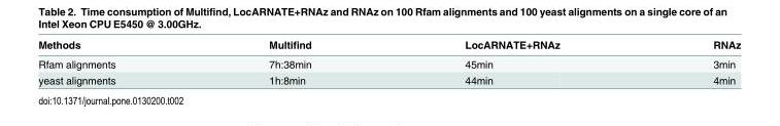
<table><thead><tr><td>Methods</td><td>Multifind</td><td>LocARNATE+RNAz</td><td>RNAz</td></tr></thead><tbody><tr><td>Rfam alignments</td><td>7h:38min</td><td>45min</td><td>3min</td></tr><tr><td>yeast alignments</td><td>1h:8min</td><td>44min</td><td>4min</td></tr></tbody></table>